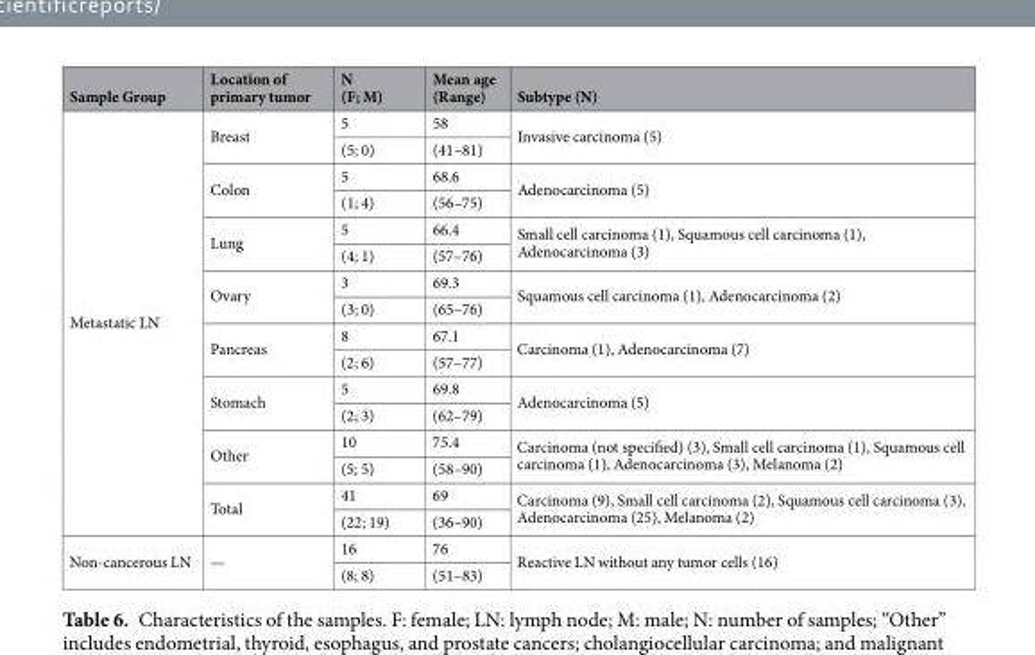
<table><thead><tr><td>Sample Group</td><td>Location of primary tumor</td><td>N (F; M)</td><td>Mean age (Range)</td><td>Subtype (N)</td></tr></thead><tbody><tr><td rowspan="16">Metastatic LN</td><td rowspan="2">Breast</td><td>5</td><td>58</td><td rowspan="2">Invasive carcinoma (5)</td></tr><tr><td>(5; 0)</td><td>(41–81)</td></tr><tr><td rowspan="2">Colon</td><td>5</td><td>68.6</td><td rowspan="2">Adenocarcinoma (5)</td></tr><tr><td>(1; 4)</td><td>(56–75)</td></tr><tr><td rowspan="2">Lung</td><td>5</td><td>66.4</td><td rowspan="2">Small cell carcinoma (1), Squamous cell carcinoma (1), Adenocarcinoma (3)</td></tr><tr><td>(4; 1)</td><td>(57–76)</td></tr><tr><td rowspan="2">Ovary</td><td>3</td><td>69.3</td><td rowspan="2">Squamous cell carcinoma (1), Adenocarcinoma (2)</td></tr><tr><td>(3; 0)</td><td>(65–76)</td></tr><tr><td rowspan="2">Pancreas</td><td>8</td><td>67.1</td><td rowspan="2">Carcinoma (1), Adenocarcinoma (7)</td></tr><tr><td>(2; 6)</td><td>(57–77)</td></tr><tr><td rowspan="2">Stomach</td><td>5</td><td>69.8</td><td rowspan="2">Adenocarcinoma (5)</td></tr><tr><td>(2; 3)</td><td>(62–79)</td></tr><tr><td rowspan="2">Other</td><td>10</td><td>75.4</td><td rowspan="2">Carcinoma (not specified) (3), Small cell carcinoma (1), Squamous cell carcinoma (1), Adenocarcinoma (3), Melanoma (2)</td></tr><tr><td>(5; 5)</td><td>(58–90)</td></tr><tr><td rowspan="2">Total</td><td>41</td><td>69</td><td rowspan="2">Carcinoma (9), Small cell carcinoma (2), Squamous cell carcinoma (3), Adenocarcinoma (25), Melanoma (2)</td></tr><tr><td>(22; 19)</td><td>(36–90)</td></tr><tr><td rowspan="2">Non-cancerous LN</td><td rowspan="2">—</td><td>16</td><td>76</td><td rowspan="2">Reactive LN without any tumor cells (16)</td></tr><tr><td>(8; 8)</td><td>(51–83)</td></tr></tbody></table>